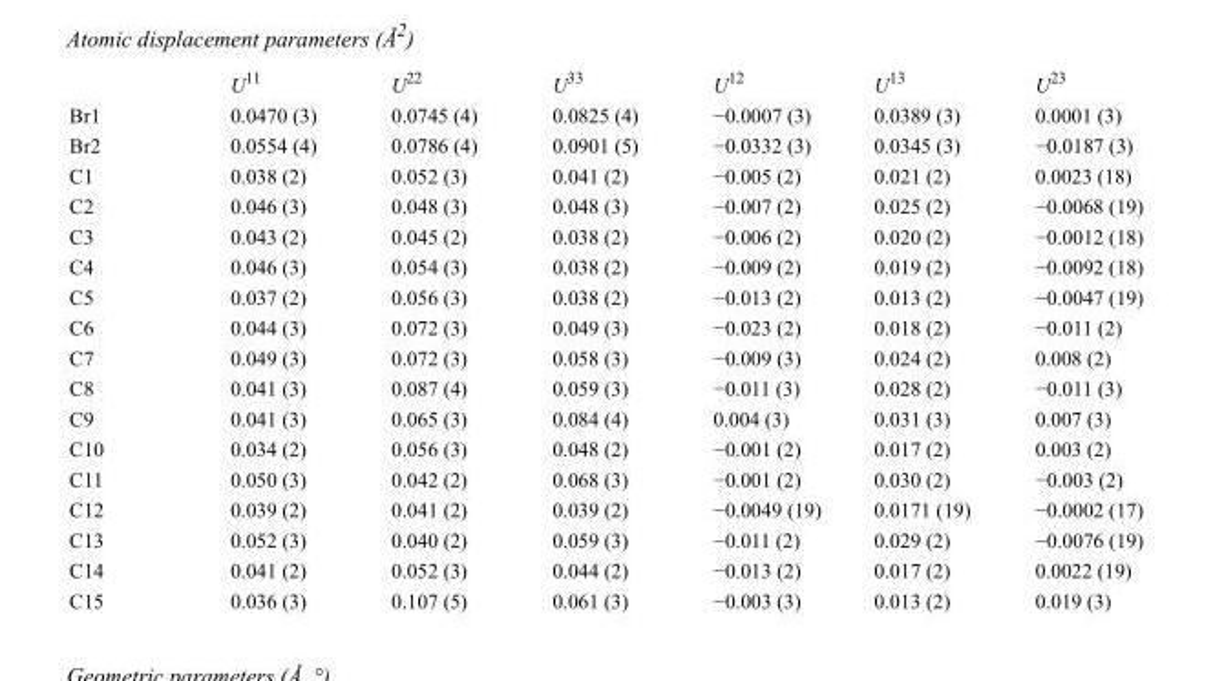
<table><thead><tr><td></td><td>U<sup>11</sup></td><td>U<sup>22</sup></td><td>U<sup>33</sup></td><td>U<sup>12</sup></td><td>U<sup>13</sup></td><td>U<sup>23</sup></td></tr></thead><tbody><tr><td>Br1</td><td>0.0470 (3)</td><td>0.0745 (4)</td><td>0.0825 (4)</td><td>−0.0007 (3)</td><td>0.0389 (3)</td><td>0.0001 (3)</td></tr><tr><td>Br2</td><td>0.0554 (4)</td><td>0.0786 (4)</td><td>0.0901 (5)</td><td>−0.0332 (3)</td><td>0.0345 (3)</td><td>−0.0187 (3)</td></tr><tr><td>C1</td><td>0.038 (2)</td><td>0.052 (3)</td><td>0.041 (2)</td><td>−0.005 (2)</td><td>0.021 (2)</td><td>0.0023 (18)</td></tr><tr><td>C2</td><td>0.046 (3)</td><td>0.048 (3)</td><td>0.048 (3)</td><td>−0.007 (2)</td><td>0.025 (2)</td><td>−0.0068 (19)</td></tr><tr><td>C3</td><td>0.043 (2)</td><td>0.045 (2)</td><td>0.038 (2)</td><td>−0.006 (2)</td><td>0.020 (2)</td><td>−0.0012 (18)</td></tr><tr><td>C4</td><td>0.046 (3)</td><td>0.054 (3)</td><td>0.038 (2)</td><td>−0.009 (2)</td><td>0.019 (2)</td><td>−0.0092 (18)</td></tr><tr><td>C5</td><td>0.037 (2)</td><td>0.056 (3)</td><td>0.038 (2)</td><td>−0.013 (2)</td><td>0.013 (2)</td><td>−0.0047 (19)</td></tr><tr><td>C6</td><td>0.044 (3)</td><td>0.072 (3)</td><td>0.049 (3)</td><td>−0.023 (2)</td><td>0.018 (2)</td><td>−0.011 (2)</td></tr><tr><td>C7</td><td>0.049 (3)</td><td>0.072 (3)</td><td>0.058 (3)</td><td>−0.009 (3)</td><td>0.024 (2)</td><td>0.008 (2)</td></tr><tr><td>C8</td><td>0.041 (3)</td><td>0.087 (4)</td><td>0.059 (3)</td><td>−0.011 (3)</td><td>0.028 (2)</td><td>−0.011 (3)</td></tr><tr><td>C9</td><td>0.041 (3)</td><td>0.065 (3)</td><td>0.084 (4)</td><td>0.004 (3)</td><td>0.031 (3)</td><td>0.007 (3)</td></tr><tr><td>C10</td><td>0.034 (2)</td><td>0.056 (3)</td><td>0.048 (2)</td><td>−0.001 (2)</td><td>0.017 (2)</td><td>0.003 (2)</td></tr><tr><td>C11</td><td>0.050 (3)</td><td>0.042 (2)</td><td>0.068 (3)</td><td>−0.001 (2)</td><td>0.030 (2)</td><td>−0.003 (2)</td></tr><tr><td>C12</td><td>0.039 (2)</td><td>0.041 (2)</td><td>0.039 (2)</td><td>−0.0049 (19)</td><td>0.0171 (19)</td><td>−0.0002 (17)</td></tr><tr><td>C13</td><td>0.052 (3)</td><td>0.040 (2)</td><td>0.059 (3)</td><td>−0.011 (2)</td><td>0.029 (2)</td><td>−0.0076 (19)</td></tr><tr><td>C14</td><td>0.041 (2)</td><td>0.052 (3)</td><td>0.044 (2)</td><td>−0.013 (2)</td><td>0.017 (2)</td><td>0.0022 (19)</td></tr><tr><td>C15</td><td>0.036 (3)</td><td>0.107 (5)</td><td>0.061 (3)</td><td>−0.003 (3)</td><td>0.013 (2)</td><td>0.019 (3)</td></tr></tbody></table>